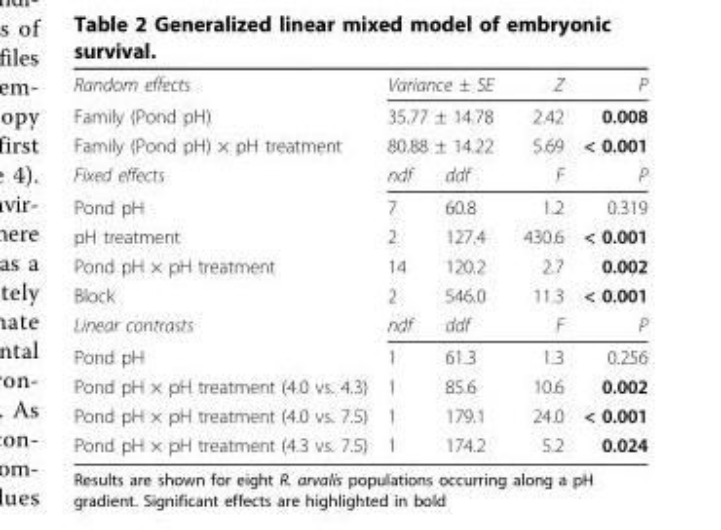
<table><tbody><tr><td>Random effects</td><td colspan="2">Variance ± SE</td><td>Z</td><td>P</td></tr><tr><td>Family (Pond pH)</td><td colspan="2">35.77 ± 14.78</td><td>2.42</td><td>0.008</td></tr><tr><td>Family (Pond pH) × pH treatment</td><td colspan="2">80.88 ± 14.22</td><td>5.69</td><td>&lt; 0.001</td></tr><tr><td>Fixed effects</td><td>ndf</td><td>ddf</td><td>F</td><td>P</td></tr><tr><td>Pond pH</td><td>7</td><td>60.8</td><td>1.2</td><td>0.319</td></tr><tr><td>pH treatment</td><td>2</td><td>127.4</td><td>430.6</td><td>&lt; 0.001</td></tr><tr><td>Pond pH × pH treatment</td><td>14</td><td>120.2</td><td>2.7</td><td>0.002</td></tr><tr><td>Block</td><td>2</td><td>546.0</td><td>11.3</td><td>&lt; 0.001</td></tr><tr><td>Linear contrasts</td><td>ndf</td><td>ddf</td><td>F</td><td>P</td></tr><tr><td>Pond pH</td><td>1</td><td>61.3</td><td>1.3</td><td>0.256</td></tr><tr><td>Pond pH × pH treatment (4.0 vs. 4.3)</td><td>1</td><td>85.6</td><td>10.6</td><td>0.002</td></tr><tr><td>Pond pH × pH treatment (4.0 vs. 7.5)</td><td>1</td><td>179.1</td><td>24.0</td><td>&lt; 0.001</td></tr><tr><td>Pond pH × pH treatment (4.3 vs. 7.5)</td><td>1</td><td>174.2</td><td>5.2</td><td>0.024</td></tr></tbody></table>